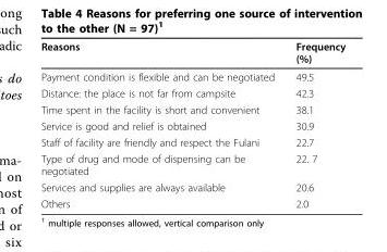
<table><thead><tr><td>Reasons</td><td>Frequency (%)</td></tr></thead><tbody><tr><td>Payment condition is flexible and can be negotiated</td><td>49.5</td></tr><tr><td>Distance: the place is not far from campsite</td><td>42.3</td></tr><tr><td>Time spent in the facility is short and convenient</td><td>38.1</td></tr><tr><td>Service is good and relief is obtained</td><td>30.9</td></tr><tr><td>Staff of facility are friendly and respect the Fulani</td><td>22.7</td></tr><tr><td>Type of drug and mode of dispensing can be negotiated</td><td>22. 7</td></tr><tr><td>Services and supplies are always available</td><td>20.6</td></tr><tr><td>Others</td><td>2.0</td></tr></tbody></table>